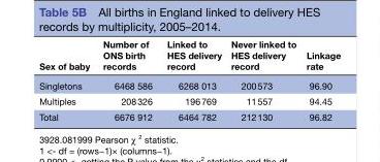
<table><thead><tr><td>Sex of baby</td><td>Number of ONS birth records</td><td>Linked to HES delivery record</td><td>Never linked to HES delivery record</td><td>Linkage rate</td></tr></thead><tbody><tr><td>Singletons</td><td>6468 586</td><td>6268 013</td><td>200 573</td><td>96.90</td></tr><tr><td>Multiples</td><td>208 326</td><td>196 769</td><td>11 557</td><td>94.45</td></tr><tr><td>Total</td><td>6676 912</td><td>6464 782</td><td>212 130</td><td>96.82</td></tr></tbody></table>